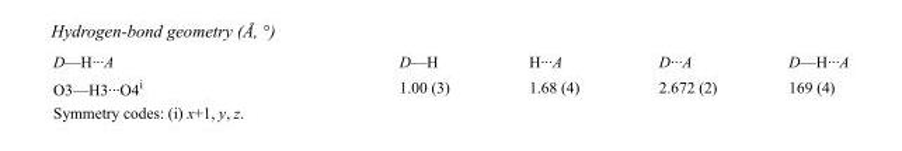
<table><tbody><tr><td>D—H···A</td><td>D—H</td><td>H···A</td><td>D···A</td><td>D—H···A</td></tr><tr><td>O3—H3···O4<sup>i</sup></td><td>1.00 (3)</td><td>1.68 (4)</td><td>2.672 (2)</td><td>169 (4)</td></tr></tbody></table>